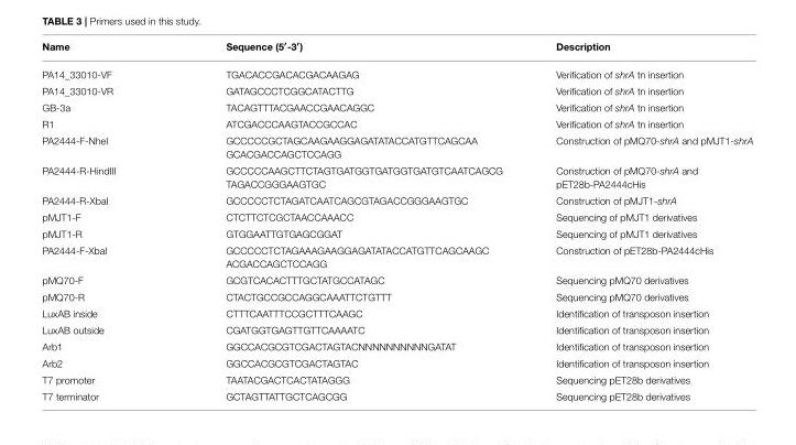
<table><thead><tr><td>Name</td><td>Sequence (5′-3′)</td><td>Description</td></tr></thead><tbody><tr><td>PA14_33010-VF</td><td>TGACACCGACACGACAAGAG</td><td>Verification of shrA tn insertion</td></tr><tr><td>PA14_33010-VR</td><td>GATAGCCCTCGGCATACTTG</td><td>Verification of shrA tn insertion</td></tr><tr><td>GB-3a</td><td>TACAGTTTACGAACCGAACAGGC</td><td>Verification of shrA tn insertion</td></tr><tr><td>R1</td><td>ATCGACCCAAGTACCGCCAC</td><td>Verification of shrA tn insertion</td></tr><tr><td>PA2444-F-NheI</td><td>GCCCCCGCTAGCAAGAAGGAGATATACCATGTTCAGCAA GCACGACCAGCTCCAGG</td><td>Construction of pMQ70-shrA and pMJT1-shrA</td></tr><tr><td>PA2444-R-HindIII</td><td>GCCCCCAAGCTTCTAGTGATGGTGATGGTGATGTCAATCAGCG TAGACCGGGAAGTGC</td><td>Construction of pMQ70-shrA and pET28b-PA2444cHis</td></tr><tr><td>PA2444-R-XbaI</td><td>GCCCCCTCTAGATCAATCAGCGTAGACCGGGAAGTGC</td><td>Construction of pMJT1-shrA</td></tr><tr><td>pMJT1-F</td><td>CTCTTCTCGCTAACCAAACC</td><td>Sequencing of pMJT1 derivatives</td></tr><tr><td>pMJT1-R</td><td>GTGGAATTGTGAGCGGAT</td><td>Sequencing of pMJT1 derivatives</td></tr><tr><td>PA2444-F-XbaI</td><td>GCCCCCTCTAGAAAGAAGGAGATATACCATGTTCAGCAAGC ACGACCAGCTCCAGG</td><td>Construction of pET28b-PA2444cHis</td></tr><tr><td>pMQ70-F</td><td>GCGTCACACTTTGCTATGCCATAGC</td><td>Sequencing pMQ70 derivatives</td></tr><tr><td>pMQ70-R</td><td>CTACTGCCGCCAGGCAAATTCTGTTT</td><td>Sequencing pMQ70 derivatives</td></tr><tr><td>LuxAB inside</td><td>CTTTCAATTTCCGCTTTCAAGC</td><td>Identification of transposon insertion</td></tr><tr><td>LuxAB outside</td><td>CGATGGTGAGTTGTTCAAAATC</td><td>Identification of transposon insertion</td></tr><tr><td>Arb1</td><td>GGCCACGCGTCGACTAGTACNNNNNNNNNNGATAT</td><td>Identification of transposon insertion</td></tr><tr><td>Arb2</td><td>GGCCACGCGTCGACTAGTAC</td><td>Identification of transposon insertion</td></tr><tr><td>T7 promoter</td><td>TAATACGACTCACTATAGGG</td><td>Sequencing pET28b derivatives</td></tr><tr><td>T7 terminator</td><td>GCTAGTTATTGCTCAGCGG</td><td>Sequencing pET28b derivatives</td></tr></tbody></table>